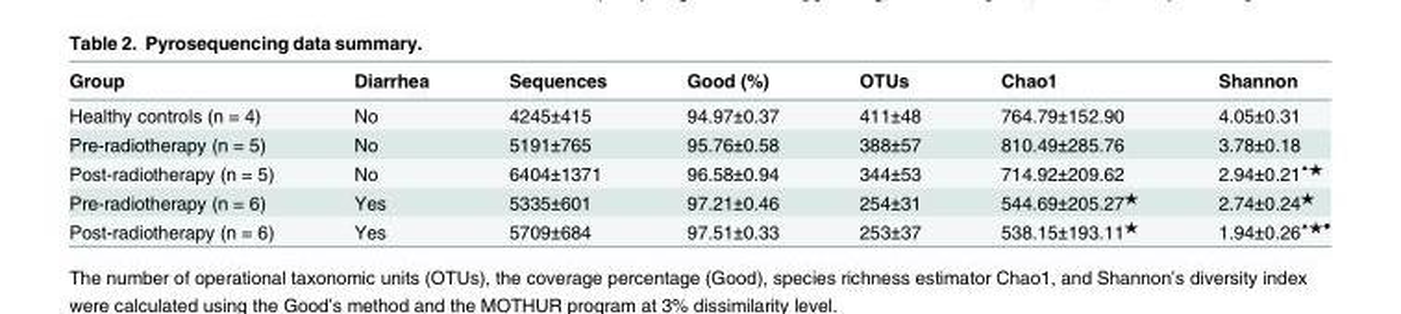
<table><thead><tr><td>Group</td><td>Diarrhea</td><td>Sequences</td><td>Good (%)</td><td>OTUs</td><td>Chao1</td><td>Shannon</td></tr></thead><tbody><tr><td>Healthy controls (n = 4)</td><td>No</td><td>4245±415</td><td>94.97±0.37</td><td>411±48</td><td>764.79±152.90</td><td>4.05±0.31</td></tr><tr><td>Pre-radiotherapy (n = 5)</td><td>No</td><td>5191±765</td><td>95.76±0.58</td><td>388±57</td><td>810.49±285.76</td><td>3.78±0.18</td></tr><tr><td>Post-radiotherapy (n = 5)</td><td>No</td><td>6404±1371</td><td>96.58±0.94</td><td>344±53</td><td>714.92±209.62</td><td>2.94±0.21<sup>▲★</sup></td></tr><tr><td>Pre-radiotherapy (n = 6)</td><td>Yes</td><td>5335±601</td><td>97.21±0.46</td><td>254±31</td><td>544.69±205.27<sup>★</sup></td><td>2.74±0.24<sup>★</sup></td></tr><tr><td>Post-radiotherapy (n = 6)</td><td>Yes</td><td>5709±684</td><td>97.51±0.33</td><td>253±37</td><td>538.15±193.11<sup>★</sup></td><td>1.94±0.26<sup>▲★●</sup></td></tr></tbody></table>